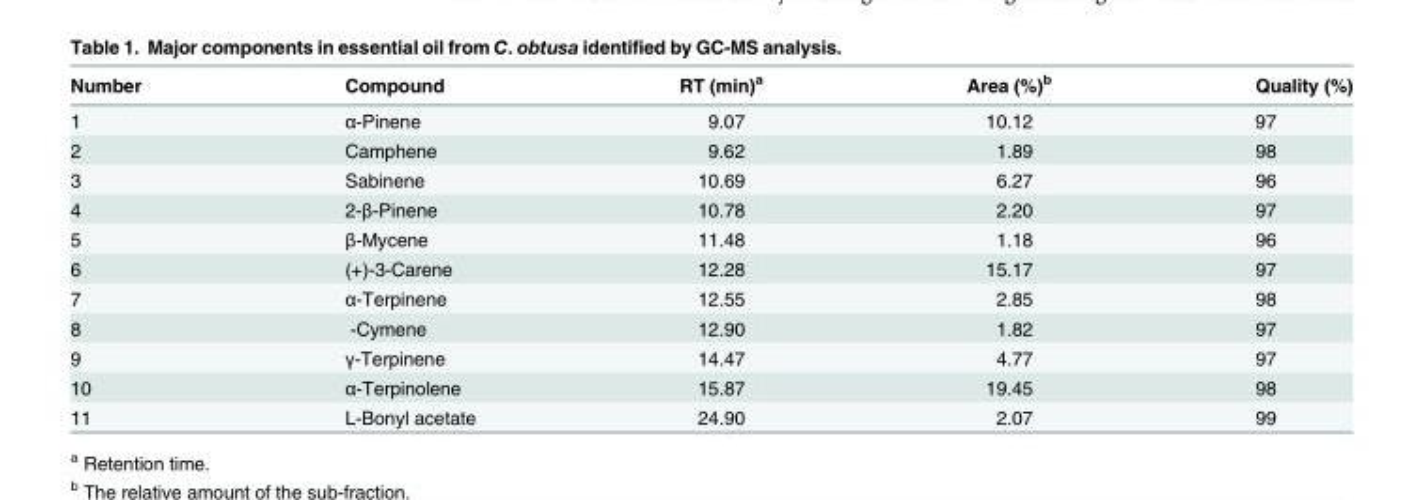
<table><thead><tr><td>Number</td><td>Compound</td><td>RT (min)<sup>a</sup></td><td>Area (%)<sup>b</sup></td><td>Quality (%)</td></tr></thead><tbody><tr><td>1</td><td>α-Pinene</td><td>9.07</td><td>10.12</td><td>97</td></tr><tr><td>2</td><td>Camphene</td><td>9.62</td><td>1.89</td><td>98</td></tr><tr><td>3</td><td>Sabinene</td><td>10.69</td><td>6.27</td><td>96</td></tr><tr><td>4</td><td>2-β-Pinene</td><td>10.78</td><td>2.20</td><td>97</td></tr><tr><td>5</td><td>β-Mycene</td><td>11.48</td><td>1.18</td><td>96</td></tr><tr><td>6</td><td>(+)-3-Carene</td><td>12.28</td><td>15.17</td><td>97</td></tr><tr><td>7</td><td>α-Terpinene</td><td>12.55</td><td>2.85</td><td>98</td></tr><tr><td>8</td><td>ο-Cymene</td><td>12.90</td><td>1.82</td><td>97</td></tr><tr><td>9</td><td>γ-Terpinene</td><td>14.47</td><td>4.77</td><td>97</td></tr><tr><td>10</td><td>α-Terpinolene</td><td>15.87</td><td>19.45</td><td>98</td></tr><tr><td>11</td><td>L-Bonyl acetate</td><td>24.90</td><td>2.07</td><td>99</td></tr></tbody></table>